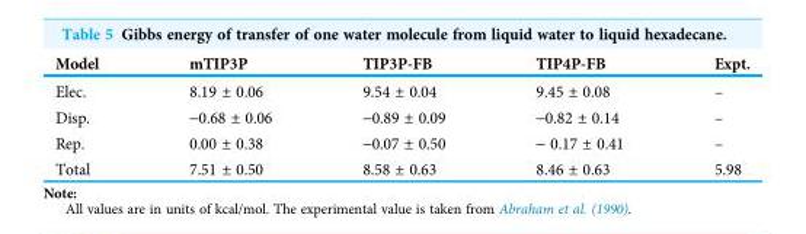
<table><thead><tr><td>Model</td><td>mTIP3P</td><td>TIP3P-FB</td><td>TIP4P-FB</td><td>Expt.</td></tr></thead><tbody><tr><td>Elec.</td><td>8.19 ± 0.06</td><td>9.54 ± 0.04</td><td>9.45 ± 0.08</td><td>–</td></tr><tr><td>Disp.</td><td>-0.68 ± 0.06</td><td>-0.89 ± 0.09</td><td>-0.82 ± 0.14</td><td>–</td></tr><tr><td>Rep.</td><td>0.00 ± 0.38</td><td>-0.07 ± 0.50</td><td>- 0.17 ± 0.41</td><td>–</td></tr><tr><td>Total</td><td>7.51 ± 0.50</td><td>8.58 ± 0.63</td><td>8.46 ± 0.63</td><td>5.98</td></tr></tbody></table>